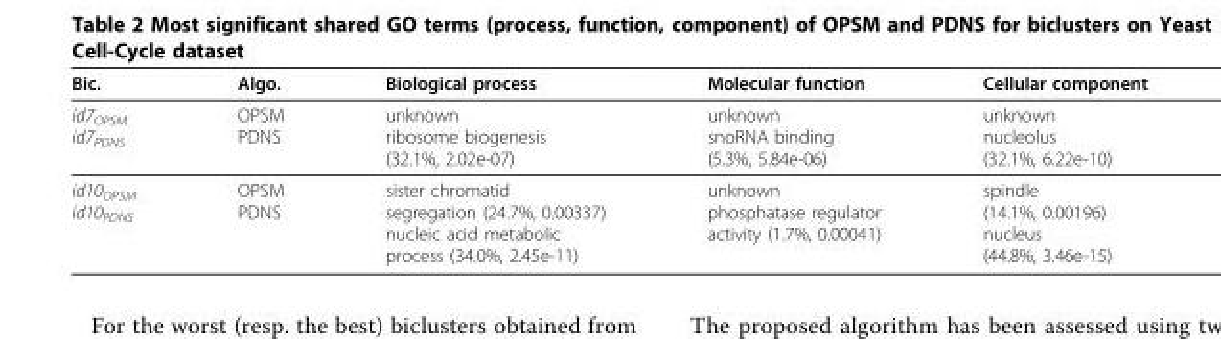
<table><thead><tr><td>Bic.</td><td>Algo.</td><td>Biological process</td><td>Molecular function</td><td>Cellular component</td></tr></thead><tbody><tr><td>id7<sub>OPSM</sub> id7<sub>PDNS</sub></td><td>OPSM PDNS</td><td>unknown ribosome biogenesis (32.1%, 2.02e-07)</td><td>unknown snoRNA binding (5.3%, 5.84e-06)</td><td>unknown nucleolus (32.1%, 6.22e-10)</td></tr><tr><td>id10<sub>OPSM</sub> id10<sub>PDNS</sub></td><td>OPSM PDNS</td><td>sister chromatid segregation (24.7%, 0.00337) nucleic acid metabolic process (34.0%, 2.45e-11)</td><td>unknown phosphatase regulator activity (1.7%, 0.00041)</td><td>spindle (14.1%, 0.00196) nucleus (44.8%, 3.46e-15)</td></tr></tbody></table>